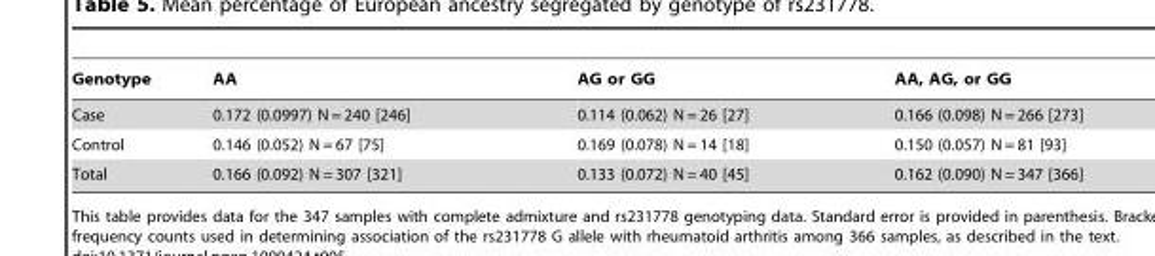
<table><thead><tr><td>Genotype</td><td>AA</td><td>AG or GG</td><td>AA, AG, or GG</td></tr></thead><tbody><tr><td>Case</td><td>0.172 (0.0997) N = 240 [246]</td><td>0.114 (0.062) N = 26 [27]</td><td>0.166 (0.098) N = 266 [273]</td></tr><tr><td>Control</td><td>0.146 (0.052) N = 67 [75]</td><td>0.169 (0.078) N = 14 [18]</td><td>0.150 (0.057) N = 81 [93]</td></tr><tr><td>Total</td><td>0.166 (0.092) N = 307 [321]</td><td>0.133 (0.072) N = 40 [45]</td><td>0.162 (0.090) N = 347 [366]</td></tr></tbody></table>